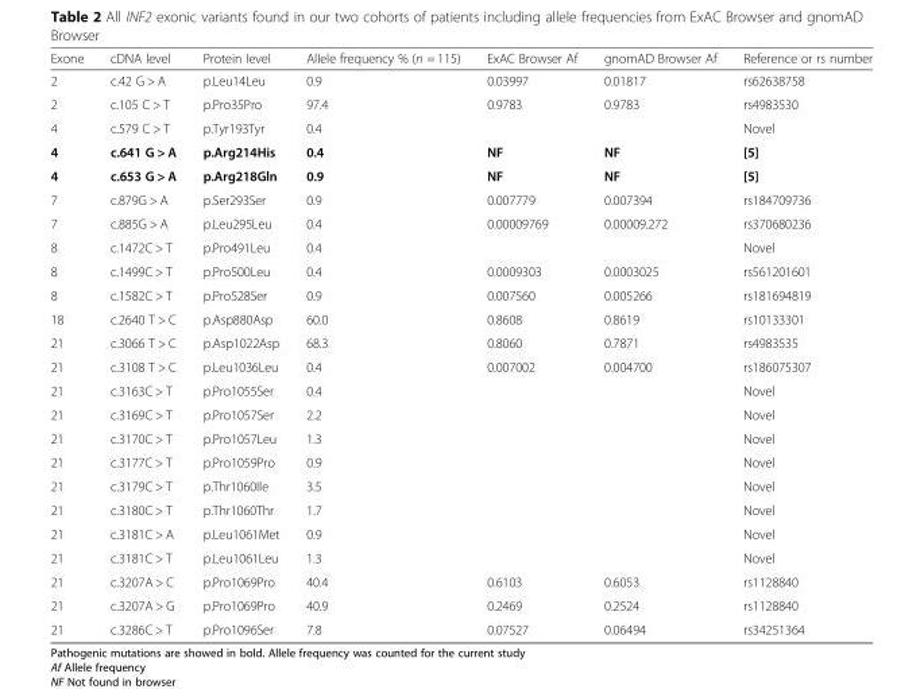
<table><thead><tr><td>Exone</td><td>cDNA level</td><td>Protein level</td><td>Allele frequency % (n = 115)</td><td>ExAC Browser Af</td><td>gnomAD Browser Af</td><td>Reference or rs number</td></tr></thead><tbody><tr><td>2</td><td>c.42 G &gt; A</td><td>p.Leu14Leu</td><td>0.9</td><td>0.03997</td><td>0.01817</td><td>rs62638758</td></tr><tr><td>2</td><td>c.105 C &gt; T</td><td>p.Pro35Pro</td><td>97.4</td><td>0.9783</td><td>0.9783</td><td>rs4983530</td></tr><tr><td>4</td><td>c.579 C &gt; T</td><td>p.Tyr193Tyr</td><td>0.4</td><td></td><td></td><td>Novel</td></tr><tr><td>4</td><td>c.641 G &gt; A</td><td>p.Arg214His</td><td>0.4</td><td>NF</td><td>NF</td><td>[5]</td></tr><tr><td>4</td><td>c.653 G &gt; A</td><td>p.Arg218Gln</td><td>0.9</td><td>NF</td><td>NF</td><td>[5]</td></tr><tr><td>7</td><td>c.879G &gt; A</td><td>p.Ser293Ser</td><td>0.9</td><td>0.007779</td><td>0.007394</td><td>rs184709736</td></tr><tr><td>7</td><td>c.885G &gt; A</td><td>p.Leu295Leu</td><td>0.4</td><td>0.00009769</td><td>0.00009.272</td><td>rs370680236</td></tr><tr><td>8</td><td>c.1472C &gt; T</td><td>p.Pro491Leu</td><td>0.4</td><td></td><td></td><td>Novel</td></tr><tr><td>8</td><td>c.1499C &gt; T</td><td>p.Pro500Leu</td><td>0.4</td><td>0.0009303</td><td>0.0003025</td><td>rs561201601</td></tr><tr><td>8</td><td>c.1582C &gt; T</td><td>p.Pro528Ser</td><td>0.9</td><td>0.007560</td><td>0.005266</td><td>rs181694819</td></tr><tr><td>18</td><td>c.2640 T &gt; C</td><td>p.Asp880Asp</td><td>60.0</td><td>0.8608</td><td>0.8619</td><td>rs10133301</td></tr><tr><td>21</td><td>c.3066 T &gt; C</td><td>p.Asp1022Asp</td><td>68.3</td><td>0.8060</td><td>0.7871</td><td>rs4983535</td></tr><tr><td>21</td><td>c.3108 T &gt; C</td><td>p.Leu1036Leu</td><td>0.4</td><td>0.007002</td><td>0.004700</td><td>rs186075307</td></tr><tr><td>21</td><td>c.3163C &gt; T</td><td>p.Pro1055Ser</td><td>0.4</td><td></td><td></td><td>Novel</td></tr><tr><td>21</td><td>c.3169C &gt; T</td><td>p.Pro1057Ser</td><td>2.2</td><td></td><td></td><td>Novel</td></tr><tr><td>21</td><td>c.3170C &gt; T</td><td>p.Pro1057Leu</td><td>1.3</td><td></td><td></td><td>Novel</td></tr><tr><td>21</td><td>c.3177C &gt; T</td><td>p.Pro1059Pro</td><td>0.9</td><td></td><td></td><td>Novel</td></tr><tr><td>21</td><td>c.3179C &gt; T</td><td>p.Thr1060Ile</td><td>3.5</td><td></td><td></td><td>Novel</td></tr><tr><td>21</td><td>c.3180C &gt; T</td><td>p.Thr1060Thr</td><td>1.7</td><td></td><td></td><td>Novel</td></tr><tr><td>21</td><td>c.3181C &gt; A</td><td>p.Leu1061Met</td><td>0.9</td><td></td><td></td><td>Novel</td></tr><tr><td>21</td><td>c.3181C &gt; T</td><td>p.Leu1061Leu</td><td>1.3</td><td></td><td></td><td>Novel</td></tr><tr><td>21</td><td>c.3207A &gt; C</td><td>p.Pro1069Pro</td><td>40.4</td><td>0.6103</td><td>0.6053</td><td>rs1128840</td></tr><tr><td>21</td><td>c.3207A &gt; G</td><td>p.Pro1069Pro</td><td>40.9</td><td>0.2469</td><td>0.2524</td><td>rs1128840</td></tr><tr><td>21</td><td>c.3286C &gt; T</td><td>p.Pro1096Ser</td><td>7.8</td><td>0.07527</td><td>0.06494</td><td>rs34251364</td></tr></tbody></table>